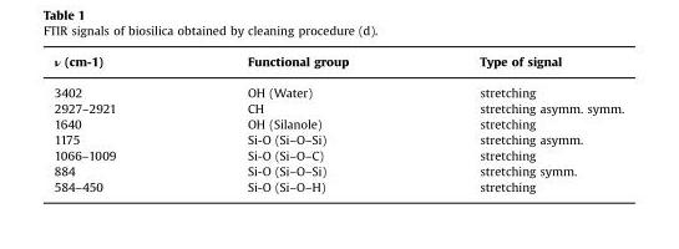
<table><thead><tr><td>ν (cm-1)</td><td>Functional group</td><td>Type of signal</td></tr></thead><tbody><tr><td>3402</td><td>OH (Water)</td><td>stretching</td></tr><tr><td>2927–2921</td><td>CH</td><td>stretching asymm. symm.</td></tr><tr><td>1640</td><td>OH (Silanole)</td><td>stretching</td></tr><tr><td>1175</td><td>Si-O (Si–O–Si)</td><td>stretching asymm.</td></tr><tr><td>1066–1009</td><td>Si-O (Si–O–C)</td><td>stretching</td></tr><tr><td>884</td><td>Si-O (Si–O–Si)</td><td>stretching symm.</td></tr><tr><td>584–450</td><td>Si-O (Si–O–H)</td><td>stretching</td></tr></tbody></table>